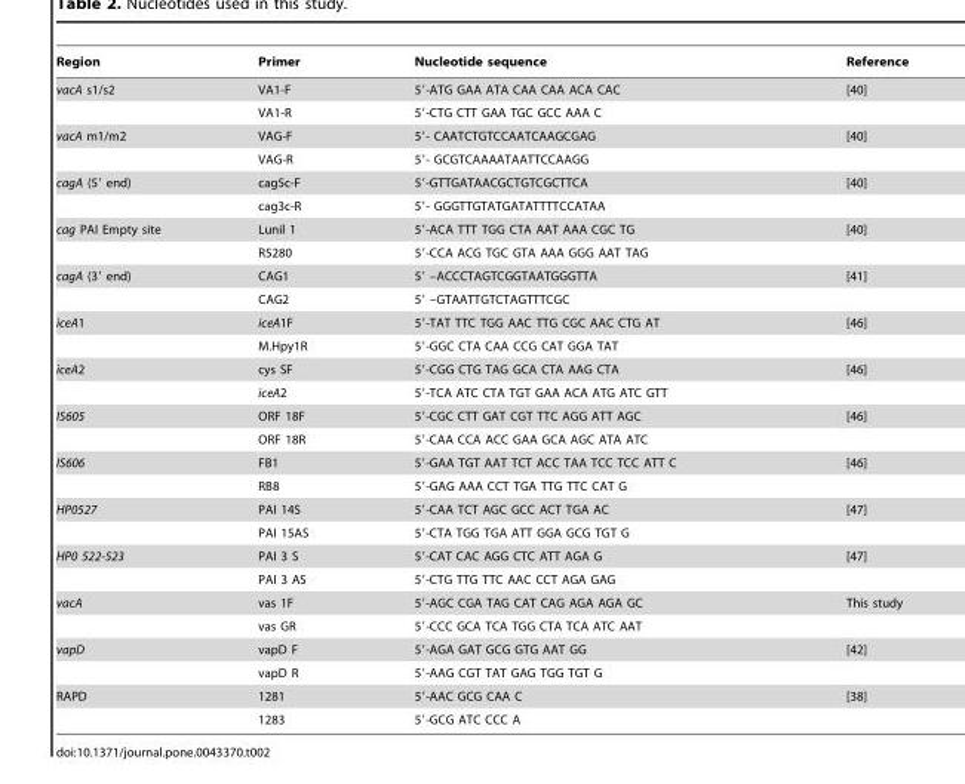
<table><thead><tr><td>Region</td><td>Primer</td><td>Nucleotide sequence</td><td>Reference</td></tr></thead><tbody><tr><td rowspan="2">vacA s1/s2</td><td>VA1-F</td><td>5′-ATG GAA ATA CAA CAA ACA CAC</td><td>[40]</td></tr><tr><td>VA1-R</td><td>5′-CTG CTT GAA TGC GCC AAA C</td><td></td></tr><tr><td rowspan="2">vacA m1/m2</td><td>VAG-F</td><td>5′- CAATCTGTCCAATCAAGCGAG</td><td>[40]</td></tr><tr><td>VAG-R</td><td>5′- GCGTCAAAATAATTCCAAGG</td><td></td></tr><tr><td rowspan="2">cagA (5′ end)</td><td>cag5c-F</td><td>5′-GTTGATAACGCTGTCGCTTCA</td><td>[40]</td></tr><tr><td>cag3c-R</td><td>5′- GGGTTGTATGATATTTTCCATAA</td><td></td></tr><tr><td rowspan="2">cag PAI Empty site</td><td>Lunil 1</td><td>5′-ACA TTT TGG CTA AAT AAA CGC TG</td><td>[40]</td></tr><tr><td>R5280</td><td>5′-CCA ACG TGC GTA AAA GGG AAT TAG</td><td></td></tr><tr><td rowspan="2">cagA (3′ end)</td><td>CAG1</td><td>5′ –ACCCTAGTCGGTAATGGGTTA</td><td>[41]</td></tr><tr><td>CAG2</td><td>5′ –GTAATTGTCTAGTTTCGC</td><td></td></tr><tr><td rowspan="2">iceA1</td><td>iceA1F</td><td>5′-TAT TTC TGG AAC TTG CGC AAC CTG AT</td><td>[46]</td></tr><tr><td>M.Hpy1R</td><td>5′-GGC CTA CAA CCG CAT GGA TAT</td><td></td></tr><tr><td rowspan="2">iceA2</td><td>cys SF</td><td>5′-CGG CTG TAG GCA CTA AAG CTA</td><td>[46]</td></tr><tr><td>iceA2</td><td>5′-TCA ATC CTA TGT GAA ACA ATG ATC GTT</td><td></td></tr><tr><td rowspan="2">IS605</td><td>ORF 18F</td><td>5′-CGC CTT GAT CGT TTC AGG ATT AGC</td><td>[46]</td></tr><tr><td>ORF 18R</td><td>5′-CAA CCA ACC GAA GCA AGC ATA ATC</td><td></td></tr><tr><td rowspan="2">IS606</td><td>FB1</td><td>5′-GAA TGT AAT TCT ACC TAA TCC TCC ATT C</td><td>[46]</td></tr><tr><td>RB8</td><td>5′-GAG AAA CCT TGA TTG TTC CAT G</td><td></td></tr><tr><td rowspan="2">HP0527</td><td>PAI 14S</td><td>5′-CAA TCT AGC GCC ACT TGA AC</td><td>[47]</td></tr><tr><td>PAI 15AS</td><td>5′-CTA TGG TGA ATT GGA GCG TGT G</td><td></td></tr><tr><td rowspan="2">HP0 522-523</td><td>PAI 3 S</td><td>5′-CAT CAC AGG CTC ATT AGA G</td><td>[47]</td></tr><tr><td>PAI 3 AS</td><td>5′-CTG TTG TTC AAC CCT AGA GAG</td><td></td></tr><tr><td rowspan="2">vacA</td><td>vas 1F</td><td>5′-AGC CGA TAG CAT CAG AGA AGA GC</td><td>This study</td></tr><tr><td>vas GR</td><td>5′-CCC GCA TCA TGG CTA TCA ATC AAT</td><td></td></tr><tr><td rowspan="2">vapD</td><td>vapD F</td><td>5′-AGA GAT GCG GTG AAT GG</td><td>[42]</td></tr><tr><td>vapD R</td><td>5′-AAG CGT TAT GAG TGG TGT G</td><td></td></tr><tr><td rowspan="2">RAPD</td><td>1281</td><td>5′-AAC GCG CAA C</td><td>[38]</td></tr><tr><td>1283</td><td>5′-GCG ATC CCC A</td><td></td></tr></tbody></table>